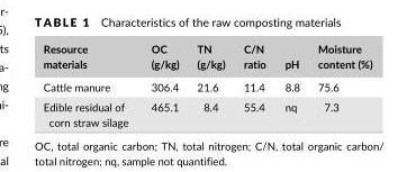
<table><thead><tr><td>Resource materials</td><td>OC (g/kg)</td><td>TN (g/kg)</td><td>C/N ratio</td><td>pH</td><td>Moisture content (%)</td></tr></thead><tbody><tr><td>Cattle manure</td><td>306.4</td><td>21.6</td><td>11.4</td><td>8.8</td><td>75.6</td></tr><tr><td>Edible residual of corn straw silage</td><td>465.1</td><td>8.4</td><td>55.4</td><td>nq</td><td>7.3</td></tr></tbody></table>